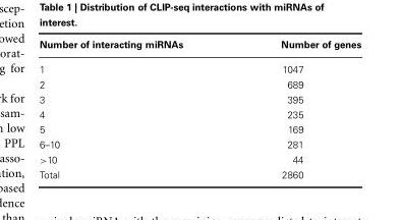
<table><thead><tr><td>Number of interacting miRNAs</td><td>Number of genes</td></tr></thead><tbody><tr><td>1</td><td>1047</td></tr><tr><td>2</td><td>689</td></tr><tr><td>3</td><td>395</td></tr><tr><td>4</td><td>235</td></tr><tr><td>5</td><td>169</td></tr><tr><td>6–10</td><td>281</td></tr><tr><td>&gt;10</td><td>44</td></tr><tr><td>Total</td><td>2860</td></tr></tbody></table>